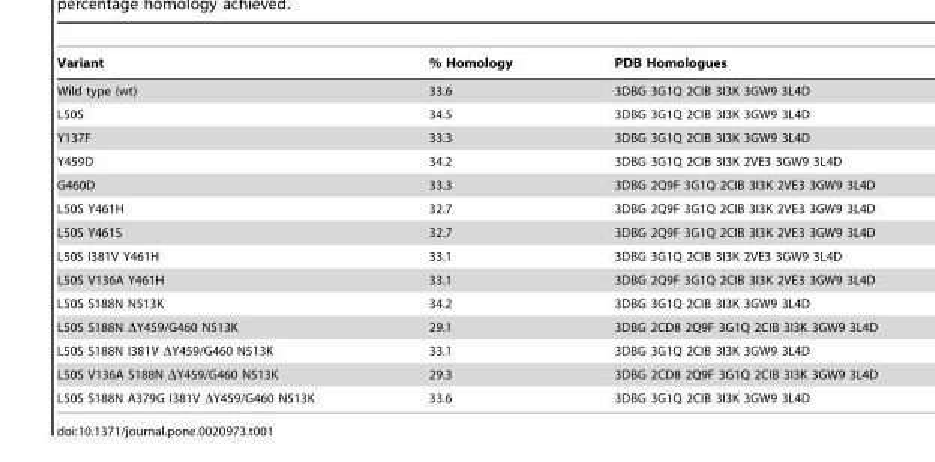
<table><thead><tr><td>Variant</td><td>% Homology</td><td>PDB Homologues</td></tr></thead><tbody><tr><td>Wild type (wt)</td><td>33.6</td><td>3DBG 3G1Q 2CIB 3I3K 3GW9 3L4D</td></tr><tr><td>L50S</td><td>34.5</td><td>3DBG 3G1Q 2CIB 3I3K 3GW9 3L4D</td></tr><tr><td>Y137F</td><td>33.3</td><td>3DBG 3G1Q 2CIB 3I3K 3GW9 3L4D</td></tr><tr><td>Y459D</td><td>34.2</td><td>3DBG 3G1Q 2CIB 3I3K 2VE3 3GW9 3L4D</td></tr><tr><td>G460D</td><td>33.3</td><td>3DBG 2Q9F 3G1Q 2CIB 3I3K 2VE3 3GW9 3L4D</td></tr><tr><td>L50S Y461H</td><td>32.7</td><td>3DBG 2Q9F 3G1Q 2CIB 3I3K 2VE3 3GW9 3L4D</td></tr><tr><td>L50S Y461S</td><td>32.7</td><td>3DBG 2Q9F 3G1Q 2CIB 3I3K 2VE3 3GW9 3L4D</td></tr><tr><td>L50S I381V Y461H</td><td>33.1</td><td>3DBG 3G1Q 2CIB 3I3K 2VE3 3GW9 3L4D</td></tr><tr><td>L50S V136A Y461H</td><td>33.1</td><td>3DBG 2Q9F 3G1Q 2CIB 3I3K 2VE3 3GW9 3L4D</td></tr><tr><td>L50S S188N N513K</td><td>34.2</td><td>3DBG 3G1Q 2CIB 3I3K 3GW9 3L4D</td></tr><tr><td>L50S S188N ΔY459/G460 N513K</td><td>29.1</td><td>3DBG 2CD8 2Q9F 3G1Q 2CIB 3I3K 3GW9 3L4D</td></tr><tr><td>L50S S188N I381V ΔY459/G460 N513K</td><td>33.1</td><td>3DBG 3G1Q 2CIB 3I3K 3GW9 3L4D</td></tr><tr><td>L50S V136A S188N ΔY459/G460 N513K</td><td>29.3</td><td>3DBG 2CD8 2Q9F 3G1Q 2CIB 3I3K 3GW9 3L4D</td></tr><tr><td>L50S S188N A379G I381V ΔY459/G460 N513K</td><td>33.6</td><td>3DBG 3G1Q 2CIB 3I3K 3GW9 3L4D</td></tr></tbody></table>